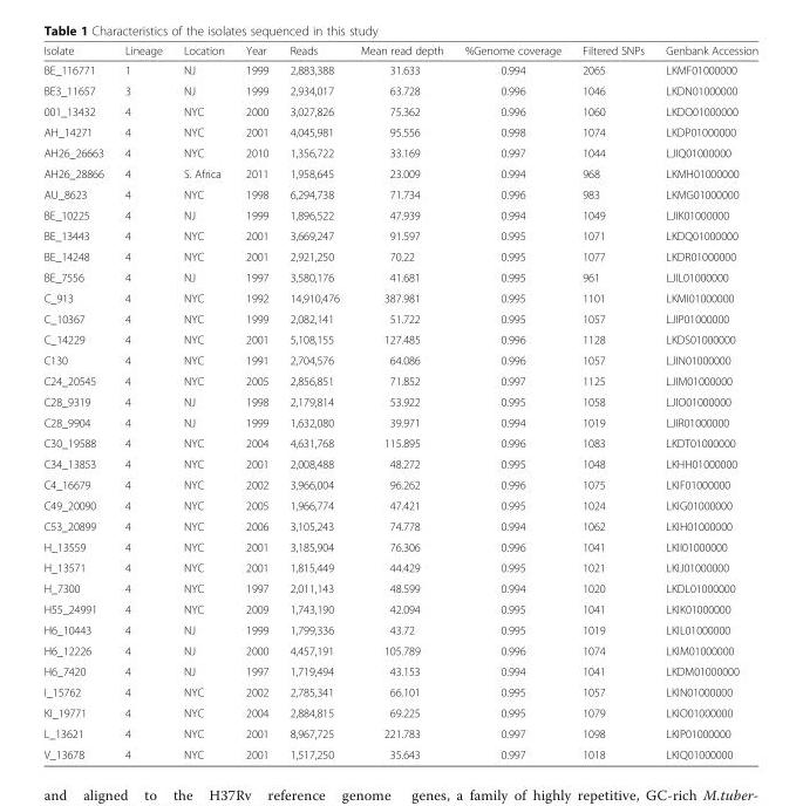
<table><thead><tr><td>Isolate</td><td>Lineage</td><td>Location</td><td>Year</td><td>Reads</td><td>Mean read depth</td><td>%Genome coverage</td><td>Filtered SNPs</td><td>Genbank Accession</td></tr></thead><tbody><tr><td>BE_116771</td><td>1</td><td>NJ</td><td>1999</td><td>2,883,388</td><td>31.633</td><td>0.994</td><td>2065</td><td>LKMF01000000</td></tr><tr><td>BE3_11657</td><td>3</td><td>NJ</td><td>1999</td><td>2,934,017</td><td>63.728</td><td>0.996</td><td>1046</td><td>LKDN01000000</td></tr><tr><td>001_13432</td><td>4</td><td>NYC</td><td>2000</td><td>3,027,826</td><td>75.362</td><td>0.996</td><td>1060</td><td>LKDO01000000</td></tr><tr><td>AH_14271</td><td>4</td><td>NYC</td><td>2001</td><td>4,045,981</td><td>95.556</td><td>0.998</td><td>1074</td><td>LKDP01000000</td></tr><tr><td>AH26_26663</td><td>4</td><td>NYC</td><td>2010</td><td>1,356,722</td><td>33.169</td><td>0.997</td><td>1044</td><td>LJIQ01000000</td></tr><tr><td>AH26_28866</td><td>4</td><td>S. Africa</td><td>2011</td><td>1,958,645</td><td>23.009</td><td>0.994</td><td>968</td><td>LKMH01000000</td></tr><tr><td>AU_8623</td><td>4</td><td>NYC</td><td>1998</td><td>6,294,738</td><td>71.734</td><td>0.996</td><td>983</td><td>LKMG01000000</td></tr><tr><td>BE_10225</td><td>4</td><td>NJ</td><td>1999</td><td>1,896,522</td><td>47.939</td><td>0.994</td><td>1049</td><td>LJIK01000000</td></tr><tr><td>BE_13443</td><td>4</td><td>NYC</td><td>2001</td><td>3,669,247</td><td>91.597</td><td>0.995</td><td>1071</td><td>LKDQ01000000</td></tr><tr><td>BE_14248</td><td>4</td><td>NYC</td><td>2001</td><td>2,921,250</td><td>70.22</td><td>0.995</td><td>1077</td><td>LKDR01000000</td></tr><tr><td>BE_7556</td><td>4</td><td>NJ</td><td>1997</td><td>3,580,176</td><td>41.681</td><td>0.995</td><td>961</td><td>LJIL01000000</td></tr><tr><td>C_913</td><td>4</td><td>NYC</td><td>1992</td><td>14,910,476</td><td>387.981</td><td>0.995</td><td>1101</td><td>LKMI01000000</td></tr><tr><td>C_10367</td><td>4</td><td>NYC</td><td>1999</td><td>2,082,141</td><td>51.722</td><td>0.995</td><td>1057</td><td>LJIP01000000</td></tr><tr><td>C_14229</td><td>4</td><td>NYC</td><td>2001</td><td>5,108,155</td><td>127.485</td><td>0.996</td><td>1128</td><td>LKDS01000000</td></tr><tr><td>C130</td><td>4</td><td>NYC</td><td>1991</td><td>2,704,576</td><td>64.086</td><td>0.996</td><td>1057</td><td>LJIN01000000</td></tr><tr><td>C24_20545</td><td>4</td><td>NYC</td><td>2005</td><td>2,856,851</td><td>71.852</td><td>0.997</td><td>1125</td><td>LJIM01000000</td></tr><tr><td>C28_9319</td><td>4</td><td>NJ</td><td>1998</td><td>2,179,814</td><td>53.922</td><td>0.995</td><td>1058</td><td>LJIO01000000</td></tr><tr><td>C28_9904</td><td>4</td><td>NJ</td><td>1999</td><td>1,632,080</td><td>39.971</td><td>0.994</td><td>1019</td><td>LJIR01000000</td></tr><tr><td>C30_19588</td><td>4</td><td>NYC</td><td>2004</td><td>4,631,768</td><td>115.895</td><td>0.996</td><td>1083</td><td>LKDT01000000</td></tr><tr><td>C34_13853</td><td>4</td><td>NYC</td><td>2001</td><td>2,008,488</td><td>48.272</td><td>0.995</td><td>1048</td><td>LKHH01000000</td></tr><tr><td>C4_16679</td><td>4</td><td>NYC</td><td>2002</td><td>3,966,004</td><td>96.262</td><td>0.996</td><td>1075</td><td>LKIF01000000</td></tr><tr><td>C49_20090</td><td>4</td><td>NYC</td><td>2005</td><td>1,966,774</td><td>47.421</td><td>0.995</td><td>1024</td><td>LKIG01000000</td></tr><tr><td>C53_20899</td><td>4</td><td>NYC</td><td>2006</td><td>3,105,243</td><td>74.778</td><td>0.994</td><td>1062</td><td>LKIH01000000</td></tr><tr><td>H_13559</td><td>4</td><td>NYC</td><td>2001</td><td>3,185,904</td><td>76.306</td><td>0.996</td><td>1041</td><td>LKII01000000</td></tr><tr><td>H_13571</td><td>4</td><td>NYC</td><td>2001</td><td>1,815,449</td><td>44.429</td><td>0.995</td><td>1021</td><td>LKIJ01000000</td></tr><tr><td>H_7300</td><td>4</td><td>NYC</td><td>1997</td><td>2,011,143</td><td>48.599</td><td>0.994</td><td>1020</td><td>LKDL01000000</td></tr><tr><td>H55_24991</td><td>4</td><td>NYC</td><td>2009</td><td>1,743,190</td><td>42.094</td><td>0.995</td><td>1041</td><td>LKIK01000000</td></tr><tr><td>H6_10443</td><td>4</td><td>NJ</td><td>1999</td><td>1,799,336</td><td>43.72</td><td>0.995</td><td>1019</td><td>LKIL01000000</td></tr><tr><td>H6_12226</td><td>4</td><td>NJ</td><td>2000</td><td>4,457,191</td><td>105.789</td><td>0.996</td><td>1074</td><td>LKIM01000000</td></tr><tr><td>H6_7420</td><td>4</td><td>NJ</td><td>1997</td><td>1,719,494</td><td>43.153</td><td>0.994</td><td>1041</td><td>LKDM01000000</td></tr><tr><td>I_15762</td><td>4</td><td>NYC</td><td>2002</td><td>2,785,341</td><td>66.101</td><td>0.995</td><td>1057</td><td>LKIN01000000</td></tr><tr><td>KI_19771</td><td>4</td><td>NYC</td><td>2004</td><td>2,884,815</td><td>69.225</td><td>0.995</td><td>1079</td><td>LKIO01000000</td></tr><tr><td>L_13621</td><td>4</td><td>NYC</td><td>2001</td><td>8,967,725</td><td>221.783</td><td>0.997</td><td>1098</td><td>LKIP01000000</td></tr><tr><td>V_13678</td><td>4</td><td>NYC</td><td>2001</td><td>1,517,250</td><td>35.643</td><td>0.997</td><td>1018</td><td>LKIQ01000000</td></tr></tbody></table>